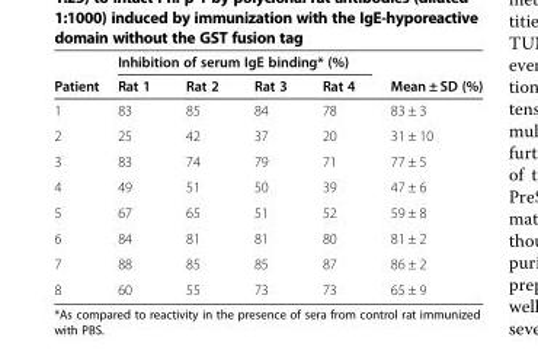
<table><thead><tr><td rowspan="2">Patient</td><td colspan="4">Inhibition of serum IgE binding* (%)</td><td rowspan="2">Mean ± SD (%)</td></tr><tr><td>Rat 1</td><td>Rat 2</td><td>Rat 3</td><td>Rat 4</td></tr></thead><tbody><tr><td>1</td><td>83</td><td>85</td><td>84</td><td>78</td><td>83 ± 3</td></tr><tr><td>2</td><td>25</td><td>42</td><td>37</td><td>20</td><td>31 ± 10</td></tr><tr><td>3</td><td>83</td><td>74</td><td>79</td><td>71</td><td>77 ± 5</td></tr><tr><td>4</td><td>49</td><td>51</td><td>50</td><td>39</td><td>47 ± 6</td></tr><tr><td>5</td><td>67</td><td>65</td><td>51</td><td>52</td><td>59 ± 8</td></tr><tr><td>6</td><td>84</td><td>81</td><td>81</td><td>80</td><td>81 ± 2</td></tr><tr><td>7</td><td>88</td><td>85</td><td>85</td><td>87</td><td>86 ± 2</td></tr><tr><td>8</td><td>60</td><td>55</td><td>73</td><td>73</td><td>65 ± 9</td></tr></tbody></table>